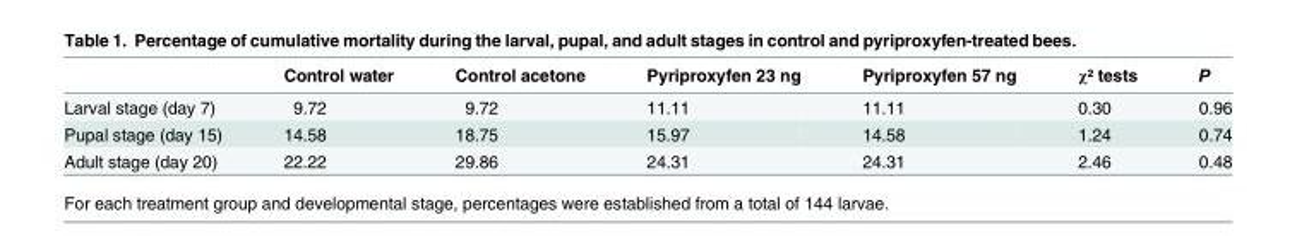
<table><thead><tr><td></td><td>Control water</td><td>Control acetone</td><td>Pyriproxyfen 23 ng</td><td>Pyriproxyfen 57 ng</td><td>χ² tests</td><td>P</td></tr></thead><tbody><tr><td>Larval stage (day 7)</td><td>9.72</td><td>9.72</td><td>11.11</td><td>11.11</td><td>0.30</td><td>0.96</td></tr><tr><td>Pupal stage (day 15)</td><td>14.58</td><td>18.75</td><td>15.97</td><td>14.58</td><td>1.24</td><td>0.74</td></tr><tr><td>Adult stage (day 20)</td><td>22.22</td><td>29.86</td><td>24.31</td><td>24.31</td><td>2.46</td><td>0.48</td></tr></tbody></table>